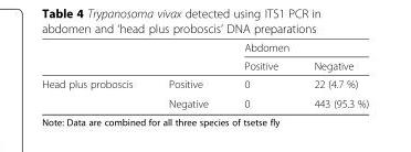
<table><thead><tr><td rowspan="2"></td><td rowspan="2"></td><td colspan="2">Abdomen</td></tr><tr><td>Positive</td><td>Negative</td></tr></thead><tbody><tr><td rowspan="2">Head plus proboscis</td><td>Positive</td><td>0</td><td>22 (4.7 %)</td></tr><tr><td>Negative</td><td>0</td><td>443 (95.3 %)</td></tr></tbody></table>